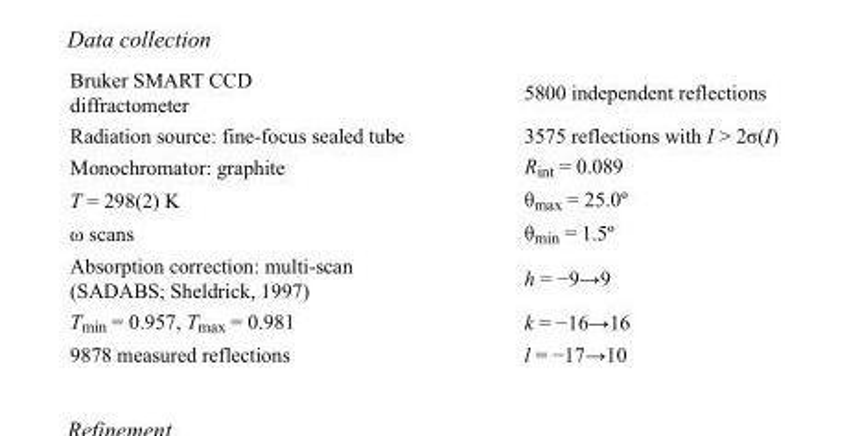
<table><tbody><tr><td>Bruker SMART CCD diffractometer</td><td>5800 independent reflections</td></tr><tr><td>Radiation source: fine-focus sealed tube</td><td>3575 reflections with I &gt; 2σ(I)</td></tr><tr><td>Monochromator: graphite</td><td>R<sub>int</sub> = 0.089</td></tr><tr><td>T = 298(2) K</td><td>θ<sub>max</sub> = 25.0º</td></tr><tr><td>ω scans</td><td>θ<sub>min</sub> = 1.5º</td></tr><tr><td>Absorption correction: multi-scan (SADABS; Sheldrick, 1997)</td><td>h = −9→9</td></tr><tr><td>T<sub>min</sub> = 0.957, T<sub>max</sub> = 0.981</td><td>k = −16→16</td></tr><tr><td>9878 measured reflections</td><td>l = −17→10</td></tr></tbody></table>